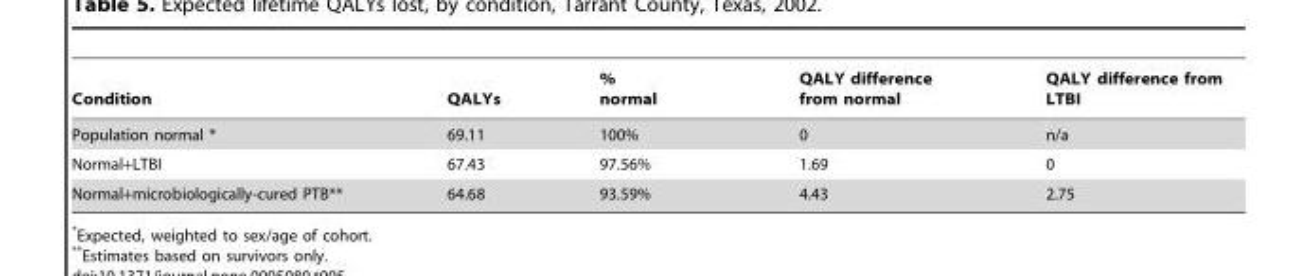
<table><thead><tr><td>Condition</td><td>QALYs</td><td>% normal</td><td>QALY difference from normal</td><td>QALY difference from LTBI</td></tr></thead><tbody><tr><td>Population normal *</td><td>69.11</td><td>100%</td><td>0</td><td>n/a</td></tr><tr><td>Normal+LTBI</td><td>67.43</td><td>97.56%</td><td>1.69</td><td>0</td></tr><tr><td>Normal+microbiologically-cured PTB**</td><td>64.68</td><td>93.59%</td><td>4.43</td><td>2.75</td></tr></tbody></table>